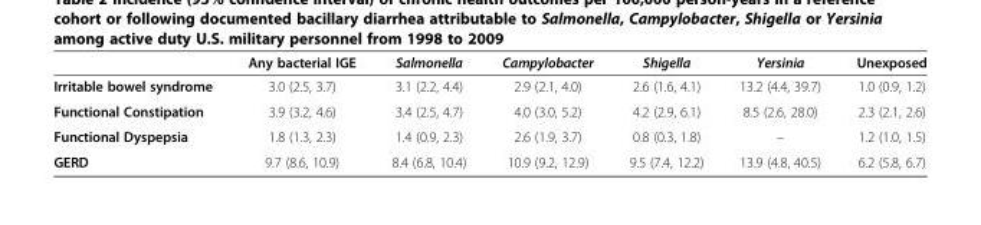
<table><thead><tr><td></td><td>Any bacterial IGE</td><td>Salmonella</td><td>Campylobacter</td><td>Shigella</td><td>Yersinia</td><td>Unexposed</td></tr></thead><tbody><tr><td>Irritable bowel syndrome</td><td>3.0 (2.5, 3.7)</td><td>3.1 (2.2, 4.4)</td><td>2.9 (2.1, 4.0)</td><td>2.6 (1.6, 4.1)</td><td>13.2 (4.4, 39.7)</td><td>1.0 (0.9, 1.2)</td></tr><tr><td>Functional Constipation</td><td>3.9 (3.2, 4.6)</td><td>3.4 (2.5, 4.7)</td><td>4.0 (3.0, 5.2)</td><td>4.2 (2.9, 6.1)</td><td>8.5 (2.6, 28.0)</td><td>2.3 (2.1, 2.6)</td></tr><tr><td>Functional Dyspepsia</td><td>1.8 (1.3, 2.3)</td><td>1.4 (0.9, 2.3)</td><td>2.6 (1.9, 3.7)</td><td>0.8 (0.3, 1.8)</td><td>–</td><td>1.2 (1.0, 1.5)</td></tr><tr><td>GERD</td><td>9.7 (8.6, 10.9)</td><td>8.4 (6.8, 10.4)</td><td>10.9 (9.2, 12.9)</td><td>9.5 (7.4, 12.2)</td><td>13.9 (4.8, 40.5)</td><td>6.2 (5.8, 6.7)</td></tr></tbody></table>